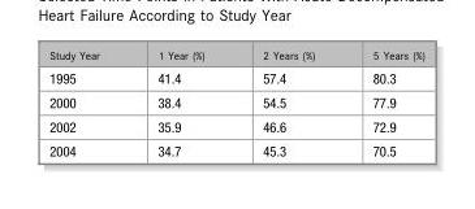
<table><thead><tr><td>Study Year</td><td>1 Year (%)</td><td>2 Years (%)</td><td>5 Years (%)</td></tr></thead><tbody><tr><td>1995</td><td>41.4</td><td>57.4</td><td>80.3</td></tr><tr><td>2000</td><td>38.4</td><td>54.5</td><td>77.9</td></tr><tr><td>2002</td><td>35.9</td><td>46.6</td><td>72.9</td></tr><tr><td>2004</td><td>34.7</td><td>45.3</td><td>70.5</td></tr></tbody></table>